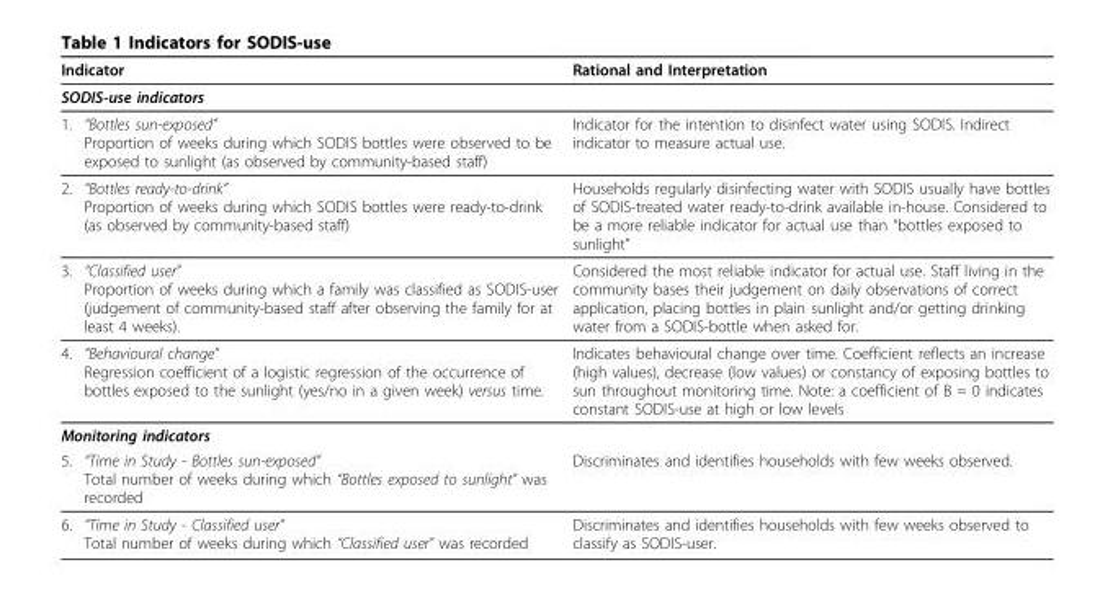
<table><thead><tr><td colspan="2">Indicator</td><td>Rational and Interpretation</td></tr><tr><td colspan="3">SODIS-use indicators</td></tr><tr><td>1.</td><td>“Bottles sun-exposed” Proportion of weeks during which SODIS bottles were observed to be exposed to sunlight (as observed by community-based staff)</td><td>Indicator for the intention to disinfect water using SODIS. Indirect indicator to measure actual use.</td></tr></thead><tbody><tr><td>2.</td><td>“Bottles ready-to-drink” Proportion of weeks during which SODIS bottles were ready-to-drink (as observed by community-based staff)</td><td>Households regularly disinfecting water with SODIS usually have bottles of SODIS-treated water ready-to-drink available in-house. Considered to be a more reliable indicator for actual use than “bottles exposed to sunlight”</td></tr><tr><td>3.</td><td>“Classified user” Proportion of weeks during which a family was classified as SODIS-user (judgement of community-based staff after observing the family for at least 4 weeks).</td><td>Considered the most reliable indicator for actual use. Staff living in the community bases their judgement on daily observations of correct application, placing bottles in plain sunlight and/or getting drinking water from a SODIS-bottle when asked for.</td></tr><tr><td>4.</td><td>“Behavioural change” Regression coefficient of a logistic regression of the occurrence of bottles exposed to the sunlight (yes/no in a given week) versus time.</td><td>Indicates behavioural change over time. Coefficient reflects an increase (high values), decrease (low values) or constancy of exposing bottles to sun throughout monitoring time. Note: a coefficient of B = 0 indicates constant SODIS-use at high or low levels</td></tr><tr><td colspan="3">Monitoring indicators</td></tr><tr><td>5.</td><td>“Time in Study - Bottles sun-exposed” Total number of weeks during which “Bottles exposed to sunlight” was recorded</td><td>Discriminates and identifies households with few weeks observed.</td></tr><tr><td>6.</td><td>“Time in Study - Classified user” Total number of weeks during which “Classified user” was recorded</td><td>Discriminates and identifies households with few weeks observed to classify as SODIS-user.</td></tr></tbody></table>